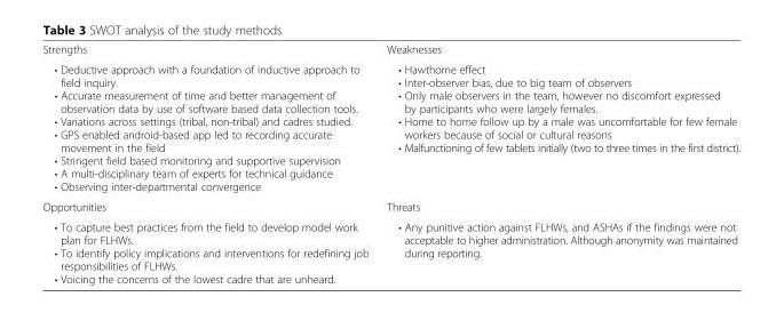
<table><tbody><tr><td>Strengths</td><td>Weaknesses</td></tr><tr><td>• Deductive approach with a foundation of inductive approach to field inquiry. • Accurate measurement of time and better management of observation data by use of software based data collection tools. • Variations across settings (tribal, non-tribal) and cadres studied. • GPS enabled android-based app led to recording accurate movement in the field • Stringent field based monitoring and supportive supervision • A multi-disciplinary team of experts for technical guidance • Observing inter-departmental convergence</td><td>• Hawthorne effect • Inter-observer bias, due to big team of observers • Only male observers in the team, however no discomfort expressed by participants who were largely females. • Home to home follow up by a male was uncomfortable for few female workers because of social or cultural reasons • Malfunctioning of few tablets initially (two to three times in the first district).</td></tr><tr><td>Opportunities</td><td>Threats</td></tr><tr><td>• To capture best practices from the field to develop model work plan for FLHWs. • To identify policy implications and interventions for redefining job responsibilities of FLHWs. • Voicing the concerns of the lowest cadre that are unheard.</td><td>• Any punitive action against FLHWs, and ASHAs if the findings were not acceptable to higher administration. Although anonymity was maintained during reporting.</td></tr></tbody></table>